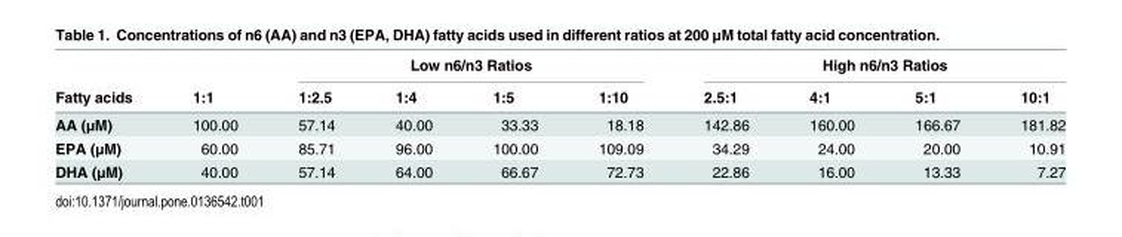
<table><thead><tr><td rowspan="2">Fatty acids</td><td rowspan="2">1:1</td><td colspan="4">Low n6/n3 Ratios</td><td colspan="4">High n6/n3 Ratios</td></tr><tr><td>1:2.5</td><td>1:4</td><td>1:5</td><td>1:10</td><td>2.5:1</td><td>4:1</td><td>5:1</td><td>10:1</td></tr></thead><tbody><tr><td>AA (μM)</td><td>100.00</td><td>57.14</td><td>40.00</td><td>33.33</td><td>18.18</td><td>142.86</td><td>160.00</td><td>166.67</td><td>181.82</td></tr><tr><td>EPA (μM)</td><td>60.00</td><td>85.71</td><td>96.00</td><td>100.00</td><td>109.09</td><td>34.29</td><td>24.00</td><td>20.00</td><td>10.91</td></tr><tr><td>DHA (μM)</td><td>40.00</td><td>57.14</td><td>64.00</td><td>66.67</td><td>72.73</td><td>22.86</td><td>16.00</td><td>13.33</td><td>7.27</td></tr></tbody></table>